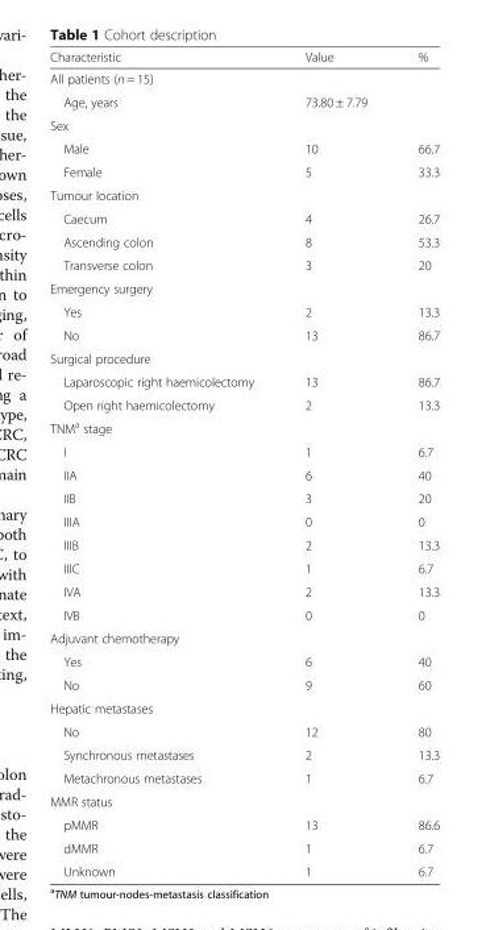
<table><thead><tr><td>Characteristic</td><td>Value</td><td>%</td></tr></thead><tbody><tr><td colspan="3">All patients (n = 15)</td></tr><tr><td>Age, years</td><td>73.80 ± 7.79</td><td></td></tr><tr><td colspan="3">Sex</td></tr><tr><td>Male</td><td>10</td><td>66.7</td></tr><tr><td>Female</td><td>5</td><td>33.3</td></tr><tr><td colspan="3">Tumour location</td></tr><tr><td>Caecum</td><td>4</td><td>26.7</td></tr><tr><td>Ascending colon</td><td>8</td><td>53.3</td></tr><tr><td>Transverse colon</td><td>3</td><td>20</td></tr><tr><td colspan="3">Emergency surgery</td></tr><tr><td>Yes</td><td>2</td><td>13.3</td></tr><tr><td>No</td><td>13</td><td>86.7</td></tr><tr><td colspan="3">Surgical procedure</td></tr><tr><td>Laparoscopic right haemicolectomy</td><td>13</td><td>86.7</td></tr><tr><td>Open right haemicolectomy</td><td>2</td><td>13.3</td></tr><tr><td colspan="3">TNM<sup>a</sup> stage</td></tr><tr><td>I</td><td>1</td><td>6.7</td></tr><tr><td>IIA</td><td>6</td><td>40</td></tr><tr><td>IIB</td><td>3</td><td>20</td></tr><tr><td>IIIA</td><td>0</td><td>0</td></tr><tr><td>IIIB</td><td>2</td><td>13.3</td></tr><tr><td>IIIC</td><td>1</td><td>6.7</td></tr><tr><td>IVA</td><td>2</td><td>13.3</td></tr><tr><td>IVB</td><td>0</td><td>0</td></tr><tr><td colspan="3">Adjuvant chemotherapy</td></tr><tr><td>Yes</td><td>6</td><td>40</td></tr><tr><td>No</td><td>9</td><td>60</td></tr><tr><td colspan="3">Hepatic metastases</td></tr><tr><td>No</td><td>12</td><td>80</td></tr><tr><td>Synchronous metastases</td><td>2</td><td>13.3</td></tr><tr><td>Metachronous metastases</td><td>1</td><td>6.7</td></tr><tr><td colspan="3">MMR status</td></tr><tr><td>pMMR</td><td>13</td><td>86.6</td></tr><tr><td>dMMR</td><td>1</td><td>6.7</td></tr><tr><td>Unknown</td><td>1</td><td>6.7</td></tr></tbody></table>